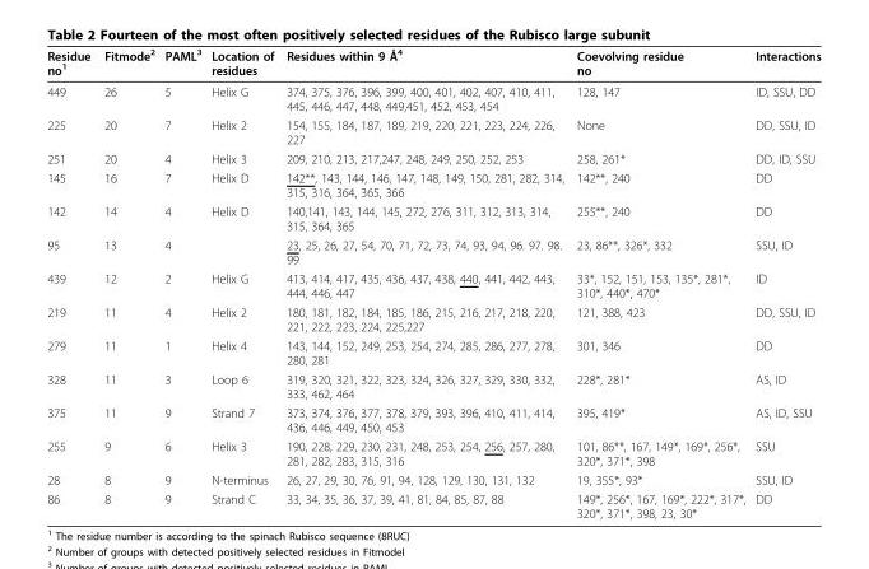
<table><thead><tr><td>Residue no<sup>1</sup></td><td>Fitmode<sup>2</sup></td><td>PAML<sup>3</sup></td><td>Location of residues</td><td>Residues within 9 Å<sup>4</sup></td><td>Coevolving residue no</td><td>Interactions</td></tr></thead><tbody><tr><td>449</td><td>26</td><td>5</td><td>Helix G</td><td>374, 375, 376, 396, 399, 400, 401, 402, 407, 410, 411, 445, 446, 447, 448, 449,451, 452, 453, 454</td><td>128, 147</td><td>ID, SSU, DD</td></tr><tr><td>225</td><td>20</td><td>7</td><td>Helix 2</td><td>154, 155, 184, 187, 189, 219, 220, 221, 223, 224, 226, 227</td><td>None</td><td>DD, SSU, ID</td></tr><tr><td>251</td><td>20</td><td>4</td><td>Helix 3</td><td>209, 210, 213, 217,247, 248, 249, 250, 252, 253</td><td>258, 261*</td><td>DD, ID, SSU</td></tr><tr><td>145</td><td>16</td><td>7</td><td>Helix D</td><td>142**, 143, 144, 146, 147, 148, 149, 150, 281, 282, 314, 315, 316, 364, 365, 366</td><td>142**, 240</td><td>DD</td></tr><tr><td>142</td><td>14</td><td>4</td><td>Helix D</td><td>140,141, 143, 144, 145, 272, 276, 311, 312, 313, 314, 315, 364, 365</td><td>255**, 240</td><td>DD</td></tr><tr><td>95</td><td>13</td><td>4</td><td></td><td>23, 25, 26, 27, 54, 70, 71, 72, 73, 74, 93, 94, 96. 97. 98. 99</td><td>23, 86**, 326*, 332</td><td>SSU, ID</td></tr><tr><td>439</td><td>12</td><td>2</td><td>Helix G</td><td>413, 414, 417, 435, 436, 437, 438, 440, 441, 442, 443, 444, 446, 447</td><td>33*, 152, 151, 153, 135*, 281*, 310*, 440*, 470*</td><td>ID</td></tr><tr><td>219</td><td>11</td><td>4</td><td>Helix 2</td><td>180, 181, 182, 184, 185, 186, 215, 216, 217, 218, 220, 221, 222, 223, 224, 225,227</td><td>121, 388, 423</td><td>DD, SSU, ID</td></tr><tr><td>279</td><td>11</td><td>1</td><td>Helix 4</td><td>143, 144, 152, 249, 253, 254, 274, 285, 286, 277, 278, 280, 281</td><td>301, 346</td><td>DD</td></tr><tr><td>328</td><td>11</td><td>3</td><td>Loop 6</td><td>319, 320, 321, 322, 323, 324, 326, 327, 329, 330, 332, 333, 462, 464</td><td>228*, 281*</td><td>AS, ID</td></tr><tr><td>375</td><td>11</td><td>9</td><td>Strand 7</td><td>373, 374, 376, 377, 378, 379, 393, 396, 410, 411, 414, 436, 446, 449, 450, 453</td><td>395, 419*</td><td>AS, ID, SSU</td></tr><tr><td>255</td><td>9</td><td>6</td><td>Helix 3</td><td>190, 228, 229, 230, 231, 248, 253, 254, 256, 257, 280, 281, 282, 283, 315, 316</td><td>101, 86**, 167, 149*, 169*, 256*, 320*, 371*, 398</td><td>SSU</td></tr><tr><td>28</td><td>8</td><td>9</td><td>N-terminus</td><td>26, 27, 29, 30, 76, 91, 94, 128, 129, 130, 131, 132</td><td>19, 355*, 93*</td><td>SSU, ID</td></tr><tr><td>86</td><td>8</td><td>9</td><td>Strand C</td><td>33, 34, 35, 36, 37, 39, 41, 81, 84, 85, 87, 88</td><td>149*, 256*, 167, 169*, 222*, 317*, 320*, 371*, 398, 23, 30*</td><td>DD</td></tr></tbody></table>